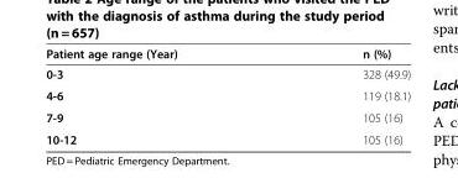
<table><thead><tr><td>Patient age range (Year)</td><td>n (%)</td></tr></thead><tbody><tr><td>0-3</td><td>328 (49.9)</td></tr><tr><td>4-6</td><td>119 (18.1)</td></tr><tr><td>7-9</td><td>105 (16)</td></tr><tr><td>10-12</td><td>105 (16)</td></tr></tbody></table>